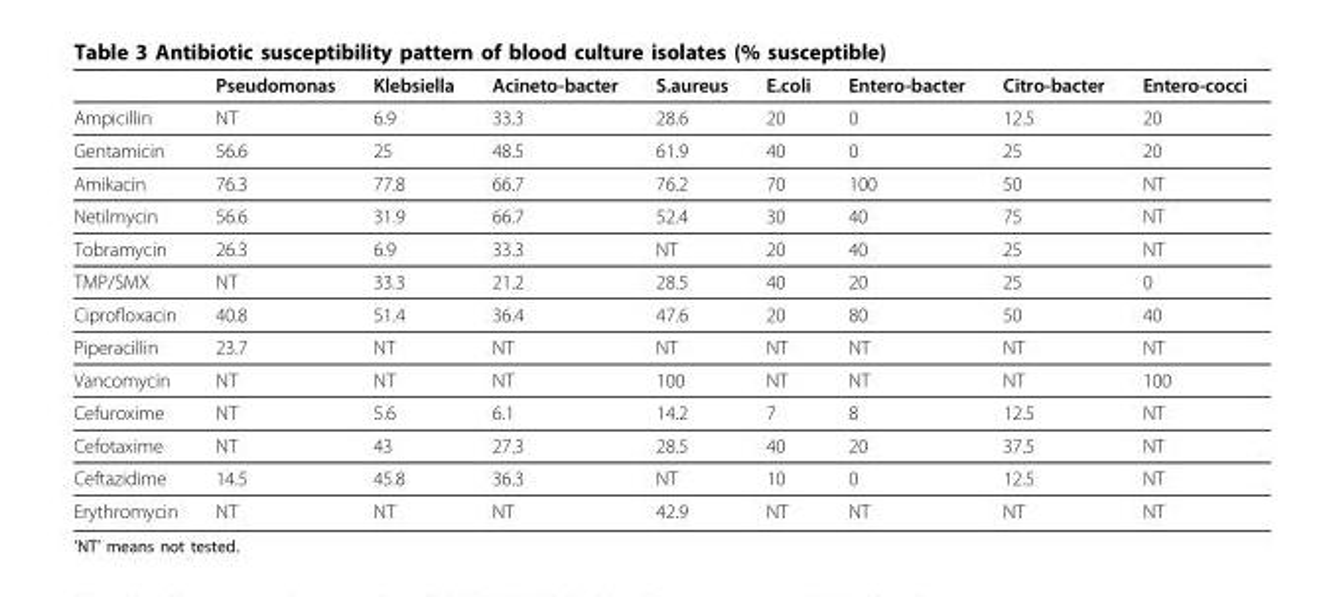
<table><thead><tr><td></td><td>Pseudomonas</td><td>Klebsiella</td><td>Acineto-bacter</td><td>S.aureus</td><td>E.coli</td><td>Entero-bacter</td><td>Citro-bacter</td><td>Entero-cocci</td></tr></thead><tbody><tr><td>Ampicillin</td><td>NT</td><td>6.9</td><td>33.3</td><td>28.6</td><td>20</td><td>0</td><td>12.5</td><td>20</td></tr><tr><td>Gentamicin</td><td>56.6</td><td>25</td><td>48.5</td><td>61.9</td><td>40</td><td>0</td><td>25</td><td>20</td></tr><tr><td>Amikacin</td><td>76.3</td><td>77.8</td><td>66.7</td><td>76.2</td><td>70</td><td>100</td><td>50</td><td>NT</td></tr><tr><td>Netilmycin</td><td>56.6</td><td>31.9</td><td>66.7</td><td>52.4</td><td>30</td><td>40</td><td>75</td><td>NT</td></tr><tr><td>Tobramycin</td><td>26.3</td><td>6.9</td><td>33.3</td><td>NT</td><td>20</td><td>40</td><td>25</td><td>NT</td></tr><tr><td>TMP/SMX</td><td>NT</td><td>33.3</td><td>21.2</td><td>28.5</td><td>40</td><td>20</td><td>25</td><td>0</td></tr><tr><td>Ciprofloxacin</td><td>40.8</td><td>51.4</td><td>36.4</td><td>47.6</td><td>20</td><td>80</td><td>50</td><td>40</td></tr><tr><td>Piperacillin</td><td>23.7</td><td>NT</td><td>NT</td><td>NT</td><td>NT</td><td>NT</td><td>NT</td><td>NT</td></tr><tr><td>Vancomycin</td><td>NT</td><td>NT</td><td>NT</td><td>100</td><td>NT</td><td>NT</td><td>NT</td><td>100</td></tr><tr><td>Cefuroxime</td><td>NT</td><td>5.6</td><td>6.1</td><td>14.2</td><td>7</td><td>8</td><td>12.5</td><td>NT</td></tr><tr><td>Cefotaxime</td><td>NT</td><td>43</td><td>27.3</td><td>28.5</td><td>40</td><td>20</td><td>37.5</td><td>NT</td></tr><tr><td>Ceftazidime</td><td>14.5</td><td>45.8</td><td>36.3</td><td>NT</td><td>10</td><td>0</td><td>12.5</td><td>NT</td></tr><tr><td>Erythromycin</td><td>NT</td><td>NT</td><td>NT</td><td>42.9</td><td>NT</td><td>NT</td><td>NT</td><td>NT</td></tr></tbody></table>